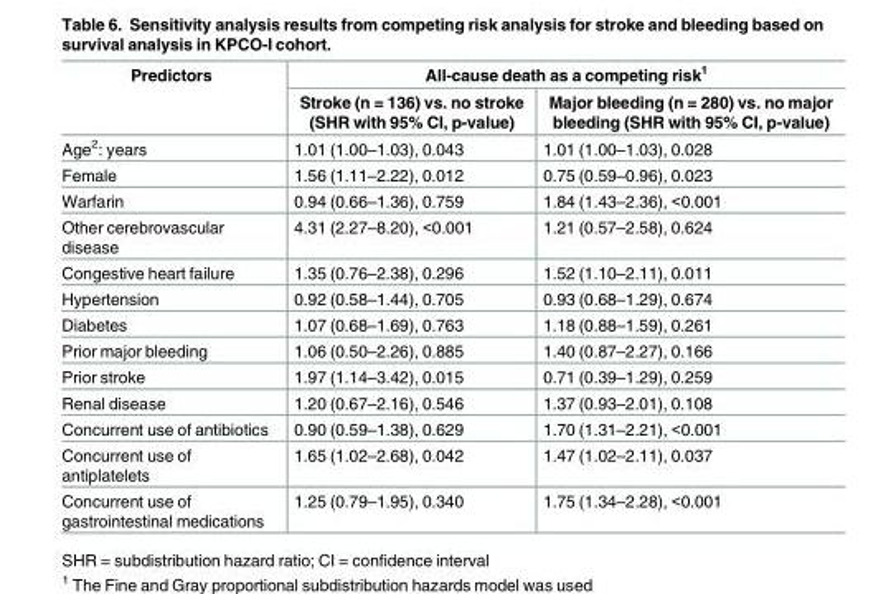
<table><thead><tr><td rowspan="2">Predictors</td><td colspan="2">All-cause death as a competing risk<sup>1</sup></td></tr><tr><td>Stroke (n = 136) vs. no stroke (SHR with 95% CI, p-value)</td><td>Major bleeding (n = 280) vs. no major bleeding (SHR with 95% CI, p-value)</td></tr></thead><tbody><tr><td>Age<sup>2</sup>: years</td><td>1.01 (1.00–1.03), 0.043</td><td>1.01 (1.00–1.03), 0.028</td></tr><tr><td>Female</td><td>1.56 (1.11–2.22), 0.012</td><td>0.75 (0.59–0.96), 0.023</td></tr><tr><td>Warfarin</td><td>0.94 (0.66–1.36), 0.759</td><td>1.84 (1.43–2.36), &lt;0.001</td></tr><tr><td>Other cerebrovascular disease</td><td>4.31 (2.27–8.20), &lt;0.001</td><td>1.21 (0.57–2.58), 0.624</td></tr><tr><td>Congestive heart failure</td><td>1.35 (0.76–2.38), 0.296</td><td>1.52 (1.10–2.11), 0.011</td></tr><tr><td>Hypertension</td><td>0.92 (0.58–1.44), 0.705</td><td>0.93 (0.68–1.29), 0.674</td></tr><tr><td>Diabetes</td><td>1.07 (0.68–1.69), 0.763</td><td>1.18 (0.88–1.59), 0.261</td></tr><tr><td>Prior major bleeding</td><td>1.06 (0.50–2.26), 0.885</td><td>1.40 (0.87–2.27), 0.166</td></tr><tr><td>Prior stroke</td><td>1.97 (1.14–3.42), 0.015</td><td>0.71 (0.39–1.29), 0.259</td></tr><tr><td>Renal disease</td><td>1.20 (0.67–2.16), 0.546</td><td>1.37 (0.93–2.01), 0.108</td></tr><tr><td>Concurrent use of antibiotics</td><td>0.90 (0.59–1.38), 0.629</td><td>1.70 (1.31–2.21), &lt;0.001</td></tr><tr><td>Concurrent use of antiplatelets</td><td>1.65 (1.02–2.68), 0.042</td><td>1.47 (1.02–2.11), 0.037</td></tr><tr><td>Concurrent use of gastrointestinal medications</td><td>1.25 (0.79–1.95), 0.340</td><td>1.75 (1.34–2.28), &lt;0.001</td></tr></tbody></table>